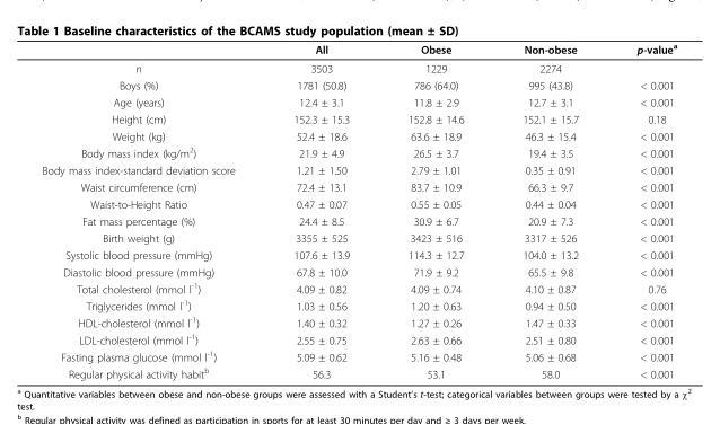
<table><thead><tr><td></td><td>All</td><td>Obese</td><td>Non-obese</td><td>p-value<sup>a</sup></td></tr></thead><tbody><tr><td>n</td><td>3503</td><td>1229</td><td>2274</td><td></td></tr><tr><td>Boys (%)</td><td>1781 (50.8)</td><td>786 (64.0)</td><td>995 (43.8)</td><td>&lt; 0.001</td></tr><tr><td>Age (years)</td><td>12.4 ± 3.1</td><td>11.8 ± 2.9</td><td>12.7 ± 3.1</td><td>&lt; 0.001</td></tr><tr><td>Height (cm)</td><td>152.3 ± 15.3</td><td>152.8 ± 14.6</td><td>152.1 ± 15.7</td><td>0.18</td></tr><tr><td>Weight (kg)</td><td>52.4 ± 18.6</td><td>63.6 ± 18.9</td><td>46.3 ± 15.4</td><td>&lt; 0.001</td></tr><tr><td>Body mass index (kg/m<sup>2</sup>)</td><td>21.9 ± 4.9</td><td>26.5 ± 3.7</td><td>19.4 ± 3.5</td><td>&lt; 0.001</td></tr><tr><td>Body mass index-standard deviation score</td><td>1.21 ± 1.50</td><td>2.79 ± 1.01</td><td>0.35 ± 0.91</td><td>&lt; 0.001</td></tr><tr><td>Waist circumference (cm)</td><td>72.4 ± 13.1</td><td>83.7 ± 10.9</td><td>66.3 ± 9.7</td><td>&lt; 0.001</td></tr><tr><td>Waist-to-Height Ratio</td><td>0.47 ± 0.07</td><td>0.55 ± 0.05</td><td>0.44 ± 0.04</td><td>&lt; 0.001</td></tr><tr><td>Fat mass percentage (%)</td><td>24.4 ± 8.5</td><td>30.9 ± 6.7</td><td>20.9 ± 7.3</td><td>&lt; 0.001</td></tr><tr><td>Birth weight (g)</td><td>3355 ± 525</td><td>3423 ± 516</td><td>3317 ± 526</td><td>&lt; 0.001</td></tr><tr><td>Systolic blood pressure (mmHg)</td><td>107.6 ± 13.9</td><td>114.3 ± 12.7</td><td>104.0 ± 13.2</td><td>&lt; 0.001</td></tr><tr><td>Diastolic blood pressure (mmHg)</td><td>67.8 ± 10.0</td><td>71.9 ± 9.2</td><td>65.5 ± 9.8</td><td>&lt; 0.001</td></tr><tr><td>Total cholesterol (mmol l<sup>-1</sup>)</td><td>4.09 ± 0.82</td><td>4.09 ± 0.74</td><td>4.10 ± 0.87</td><td>0.76</td></tr><tr><td>Triglycerides (mmol l<sup>-1</sup>)</td><td>1.03 ± 0.56</td><td>1.20 ± 0.63</td><td>0.94 ± 0.50</td><td>&lt; 0.001</td></tr><tr><td>HDL-cholesterol (mmol l<sup>-1</sup>)</td><td>1.40 ± 0.32</td><td>1.27 ± 0.26</td><td>1.47 ± 0.33</td><td>&lt; 0.001</td></tr><tr><td>LDL-cholesterol (mmol l<sup>-1</sup>)</td><td>2.55 ± 0.75</td><td>2.63 ± 0.66</td><td>2.51 ± 0.80</td><td>&lt; 0.001</td></tr><tr><td>Fasting plasma glucose (mmol l<sup>-1</sup>)</td><td>5.09 ± 0.62</td><td>5.16 ± 0.48</td><td>5.06 ± 0.68</td><td>&lt; 0.001</td></tr><tr><td>Regular physical activity habit<sup>b</sup></td><td>56.3</td><td>53.1</td><td>58.0</td><td>&lt; 0.001</td></tr></tbody></table>